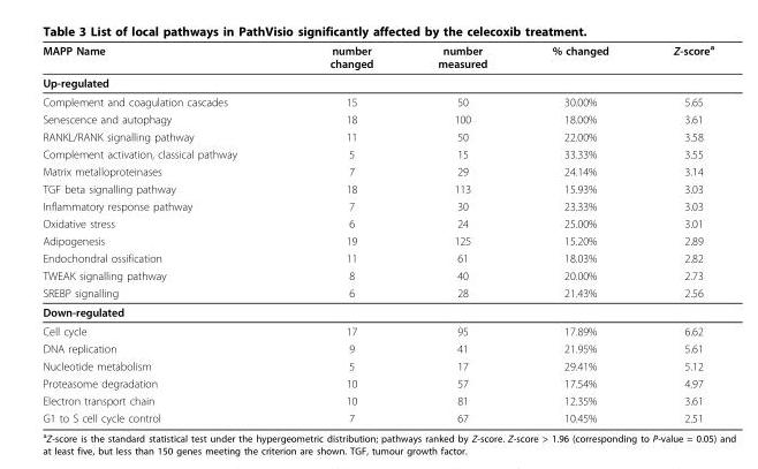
<table><thead><tr><td>MAPP Name</td><td>number changed</td><td>number measured</td><td>% changed</td><td>Z-score<sup>a</sup></td></tr></thead><tbody><tr><td colspan="5">Up-regulated</td></tr><tr><td>Complement and coagulation cascades</td><td>15</td><td>50</td><td>30.00%</td><td>5.65</td></tr><tr><td>Senescence and autophagy</td><td>18</td><td>100</td><td>18.00%</td><td>3.61</td></tr><tr><td>RANKL/RANK signalling pathway</td><td>11</td><td>50</td><td>22.00%</td><td>3.58</td></tr><tr><td>Complement activation, classical pathway</td><td>5</td><td>15</td><td>33.33%</td><td>3.55</td></tr><tr><td>Matrix metalloproteinases</td><td>7</td><td>29</td><td>24.14%</td><td>3.14</td></tr><tr><td>TGF beta signalling pathway</td><td>18</td><td>113</td><td>15.93%</td><td>3.03</td></tr><tr><td>Inflammatory response pathway</td><td>7</td><td>30</td><td>23.33%</td><td>3.03</td></tr><tr><td>Oxidative stress</td><td>6</td><td>24</td><td>25.00%</td><td>3.01</td></tr><tr><td>Adipogenesis</td><td>19</td><td>125</td><td>15.20%</td><td>2.89</td></tr><tr><td>Endochondral ossification</td><td>11</td><td>61</td><td>18.03%</td><td>2.82</td></tr><tr><td>TWEAK signalling pathway</td><td>8</td><td>40</td><td>20.00%</td><td>2.73</td></tr><tr><td>SREBP signalling</td><td>6</td><td>28</td><td>21.43%</td><td>2.56</td></tr><tr><td colspan="5">Down-regulated</td></tr><tr><td>Cell cycle</td><td>17</td><td>95</td><td>17.89%</td><td>6.62</td></tr><tr><td>DNA replication</td><td>9</td><td>41</td><td>21.95%</td><td>5.61</td></tr><tr><td>Nucleotide metabolism</td><td>5</td><td>17</td><td>29.41%</td><td>5.12</td></tr><tr><td>Proteasome degradation</td><td>10</td><td>57</td><td>17.54%</td><td>4.97</td></tr><tr><td>Electron transport chain</td><td>10</td><td>81</td><td>12.35%</td><td>3.61</td></tr><tr><td>G1 to S cell cycle control</td><td>7</td><td>67</td><td>10.45%</td><td>2.51</td></tr></tbody></table>